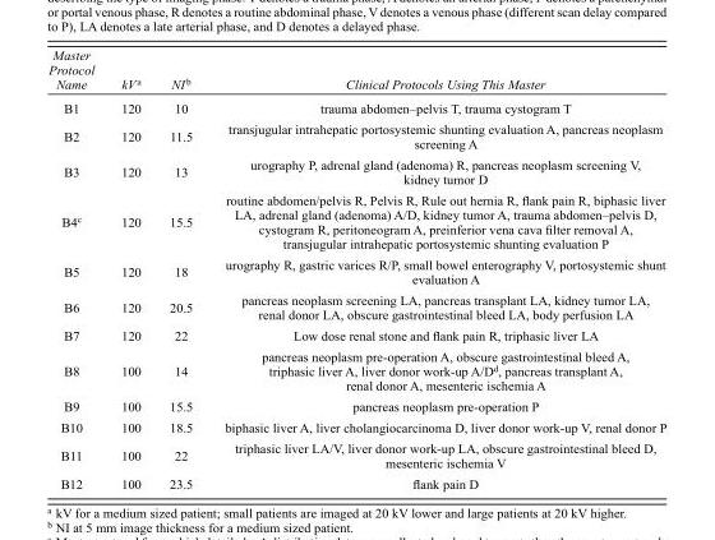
<table><thead><tr><td>Master Protocol Name</td><td>kV<sup>a</sup></td><td>NI<sup>b</sup></td><td>Clinical Protocols Using This Master</td></tr></thead><tbody><tr><td>B1</td><td>120</td><td>10</td><td>trauma abdomen–pelvis T, trauma cystogram T</td></tr><tr><td>B2</td><td>120</td><td>11.5</td><td>transjugular intrahepatic portosystemic shunting evaluation A, pancreas neoplasm screening A</td></tr><tr><td>B3</td><td>120</td><td>13</td><td>urography P, adrenal gland (adenoma) R, pancreas neoplasm screening V, kidney tumor D</td></tr><tr><td>B4<sup>c</sup></td><td>120</td><td>15.5</td><td>routine abdomen/pelvis R, Pelvis R, Rule out hernia R, flank pain R, biphasic liver LA, adrenal gland (adenoma) A/D, kidney tumor A, trauma abdomen–pelvis D, cystogram R, peritoneogram A, preinferior vena cava filter removal A, transjugular intrahepatic portosystemic shunting evaluation P</td></tr><tr><td>B5</td><td>120</td><td>18</td><td>urography R, gastric varices R/P, small bowel enterography V, portosystemic shunt evaluation A</td></tr><tr><td>B6</td><td>120</td><td>20.5</td><td>pancreas neoplasm screening LA, pancreas transplant LA, kidney tumor LA, renal donor LA, obscure gastrointestinal bleed LA, body perfusion LA</td></tr><tr><td>B7</td><td>120</td><td>22</td><td>Low dose renal stone and flank pain R, triphasic liver LA</td></tr><tr><td>B8</td><td>100</td><td>14</td><td>pancreas neoplasm pre-operation A, obscure gastrointestinal bleed A, triphasic liver A, liver donor work-up A/D<sup>d</sup>, pancreas transplant A, renal donor A, mesenteric ischemia A</td></tr><tr><td>B9</td><td>100</td><td>15.5</td><td>pancreas neoplasm pre-operation P</td></tr><tr><td>B10</td><td>100</td><td>18.5</td><td>biphasic liver A, liver cholangiocarcinoma D, liver donor work-up V, renal donor P</td></tr><tr><td>B11</td><td>100</td><td>22</td><td>triphasic liver LA/V, liver donor work-up LA, obscure gastrointestinal bleed D, mesenteric ischemia V</td></tr><tr><td>B12</td><td>100</td><td>23.5</td><td>flank pain D</td></tr></tbody></table>